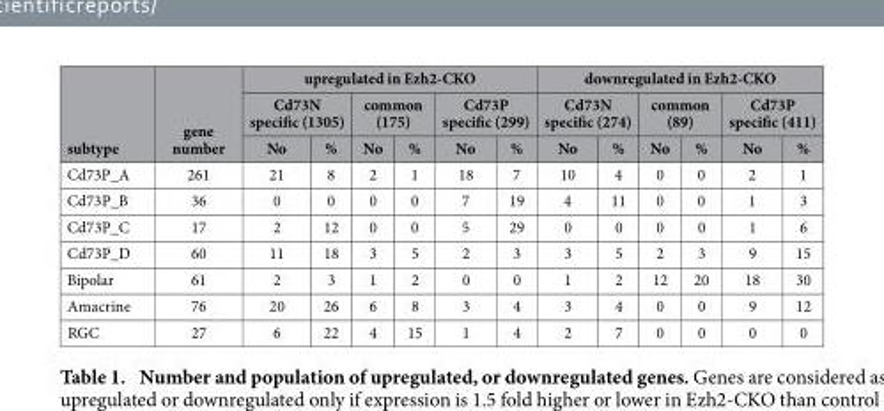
<table><thead><tr><td rowspan="3">subtype</td><td rowspan="3">gene number</td><td colspan="6">upregulated in Ezh2-CKO</td><td colspan="6">downregulated in Ezh2-CKO</td></tr><tr><td colspan="2">Cd73N specific (1305)</td><td colspan="2">common (175)</td><td colspan="2">Cd73P specific (299)</td><td colspan="2">Cd73N specific (274)</td><td colspan="2">common (89)</td><td colspan="2">Cd73P specific (411)</td></tr><tr><td>No</td><td>%</td><td>No</td><td>%</td><td>No</td><td>%</td><td>No</td><td>%</td><td>No</td><td>%</td><td>No</td><td>%</td></tr></thead><tbody><tr><td>Cd73P_A</td><td>261</td><td>21</td><td>8</td><td>2</td><td>1</td><td>18</td><td>7</td><td>10</td><td>4</td><td>0</td><td>0</td><td>2</td><td>1</td></tr><tr><td>Cd73P_B</td><td>36</td><td>0</td><td>0</td><td>0</td><td>0</td><td>7</td><td>19</td><td>4</td><td>11</td><td>0</td><td>0</td><td>1</td><td>3</td></tr><tr><td>Cd73P_C</td><td>17</td><td>2</td><td>12</td><td>0</td><td>0</td><td>5</td><td>29</td><td>0</td><td>0</td><td>0</td><td>0</td><td>1</td><td>6</td></tr><tr><td>Cd73P_D</td><td>60</td><td>11</td><td>18</td><td>3</td><td>5</td><td>2</td><td>3</td><td>3</td><td>5</td><td>2</td><td>3</td><td>9</td><td>15</td></tr><tr><td>Bipolar</td><td>61</td><td>2</td><td>3</td><td>1</td><td>2</td><td>0</td><td>0</td><td>1</td><td>2</td><td>12</td><td>20</td><td>18</td><td>30</td></tr><tr><td>Amacrine</td><td>76</td><td>20</td><td>26</td><td>6</td><td>8</td><td>3</td><td>4</td><td>3</td><td>4</td><td>0</td><td>0</td><td>9</td><td>12</td></tr><tr><td>RGC</td><td>27</td><td>6</td><td>22</td><td>4</td><td>15</td><td>1</td><td>4</td><td>2</td><td>7</td><td>0</td><td>0</td><td>0</td><td>0</td></tr></tbody></table>